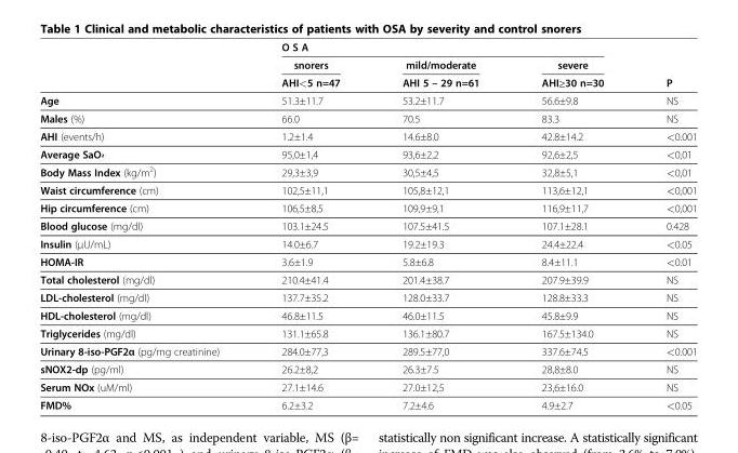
<table><thead><tr><td rowspan="3"></td><td rowspan="3">O S A snorers AHI&lt;5 n=47</td><td rowspan="3">mild/moderate AHI 5 – 29 n=61</td><td rowspan="3">severe AHI≥30 n=30</td><td rowspan="3">P</td></tr><tr></tr><tr></tr></thead><tbody><tr><td>Age</td><td>51.3±11.7</td><td>53.2±11.7</td><td>56.6±9.8</td><td>NS</td></tr><tr><td>Males (%)</td><td>66.0</td><td>70.5</td><td>83.3</td><td>NS</td></tr><tr><td>AHI (events/h)</td><td>1.2±1.4</td><td>14.6±8.0</td><td>42.8±14.2</td><td>&lt;0.001</td></tr><tr><td>Average SaO<sub>²</sub></td><td>95,0±1,4</td><td>93,6±2,2</td><td>92,6±2,5</td><td>&lt;0,01</td></tr><tr><td>Body Mass Index (kg/m<sup>2</sup>)</td><td>29,3±3,9</td><td>30,5±4,5</td><td>32,8±5,1</td><td>&lt;0,01</td></tr><tr><td>Waist circumference (cm)</td><td>102,5±11,1</td><td>105,8±12,1</td><td>113,6±12,1</td><td>&lt;0,001</td></tr><tr><td>Hip circumference (cm)</td><td>106,5±8,5</td><td>109,9±9,1</td><td>116,9±11,7</td><td>&lt;0,001</td></tr><tr><td>Blood glucose (mg/dl)</td><td>103.1±24.5</td><td>107.5±41.5</td><td>107.1±28.1</td><td>0.428</td></tr><tr><td>Insulin (μU/mL)</td><td>14.0±6.7</td><td>19.2±19.3</td><td>24.4±22.4</td><td>&lt;0.05</td></tr><tr><td>HOMA-IR</td><td>3.6±1.9</td><td>5.8±6.8</td><td>8.4±11.1</td><td>&lt;0.01</td></tr><tr><td>Total cholesterol (mg/dl)</td><td>210.4±41.4</td><td>201.4±38.7</td><td>207.9±39.9</td><td>NS</td></tr><tr><td>LDL-cholesterol (mg/dl)</td><td>137.7±35.2</td><td>128.0±33.7</td><td>128.8±33.3</td><td>NS</td></tr><tr><td>HDL-cholesterol (mg/dl)</td><td>46.8±11.5</td><td>46.0±11.5</td><td>45.8±9.9</td><td>NS</td></tr><tr><td>Triglycerides (mg/dl)</td><td>131.1±65.8</td><td>136.1±80.7</td><td>167.5±134.0</td><td>NS</td></tr><tr><td>Urinary 8-iso-PGF2α (pg/mg creatinine)</td><td>284.0±77,3</td><td>289.5±77,0</td><td>337.6±74.5</td><td>&lt;0.001</td></tr><tr><td>sNOX2-dp (pg/ml)</td><td>26.2±8,2</td><td>26.3±7.5</td><td>28,8±8.0</td><td>NS</td></tr><tr><td>Serum NOx (uM/ml)</td><td>27.1±14.6</td><td>27.0±12,5</td><td>23,6±16.0</td><td>NS</td></tr><tr><td>FMD%</td><td>6.2±3.2</td><td>7.2±4.6</td><td>4.9±2.7</td><td>&lt;0.05</td></tr></tbody></table>